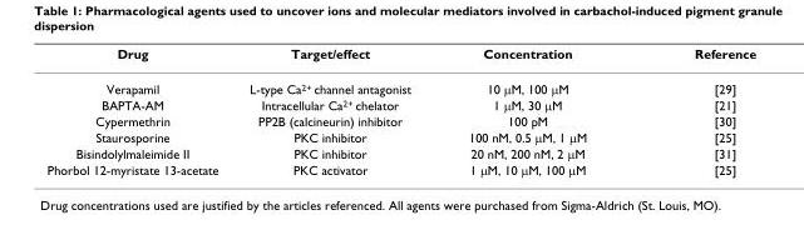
<table><thead><tr><td>Drug</td><td>Target/effect</td><td>Concentration</td><td>Reference</td></tr></thead><tbody><tr><td>Verapamil</td><td>L-type Ca<sup>2+</sup> channel antagonist</td><td>10 μM, 100 μM</td><td>[29]</td></tr><tr><td>BAPTA-AM</td><td>Intracellular Ca<sup>2+</sup> chelator</td><td>1 μM, 30 μM</td><td>[21]</td></tr><tr><td>Cypermethrin</td><td>PP2B (calcineurin) inhibitor</td><td>100 pM</td><td>[30]</td></tr><tr><td>Staurosporine</td><td>PKC inhibitor</td><td>100 nM, 0.5 μM, 1 μM</td><td>[25]</td></tr><tr><td>Bisindolylmaleimide II</td><td>PKC inhibitor</td><td>20 nM, 200 nM, 2 μM</td><td>[31]</td></tr><tr><td>Phorbol 12-myristate 13-acetate</td><td>PKC activator</td><td>1 μM, 10 μM, 100 μM</td><td>[25]</td></tr></tbody></table>